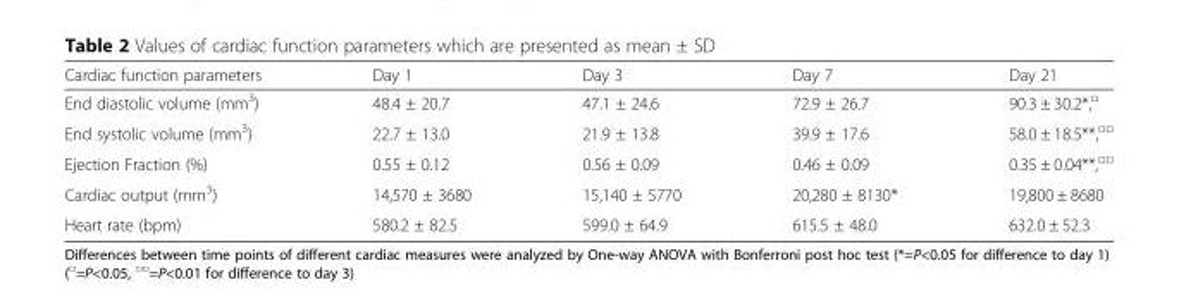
<table><thead><tr><td>Cardiac function parameters</td><td>Day 1</td><td>Day 3</td><td>Day 7</td><td>Day 21</td></tr></thead><tbody><tr><td>End diastolic volume (mm<sup>3</sup>)</td><td>48.4 ± 20.7</td><td>47.1 ± 24.6</td><td>72.9 ± 26.7</td><td>90.3 ± 30.2*,<sup>□</sup></td></tr><tr><td>End systolic volume (mm<sup>3</sup>)</td><td>22.7 ± 13.0</td><td>21.9 ± 13.8</td><td>39.9 ± 17.6</td><td>58.0 ± 18.5**,<sup>□□</sup></td></tr><tr><td>Ejection Fraction (%)</td><td>0.55 ± 0.12</td><td>0.56 ± 0.09</td><td>0.46 ± 0.09</td><td>0.35 ± 0.04**,<sup>□□</sup></td></tr><tr><td>Cardiac output (mm<sup>3</sup>)</td><td>14,570 ± 3680</td><td>15,140 ± 5770</td><td>20,280 ± 8130*</td><td>19,800 ± 8680</td></tr><tr><td>Heart rate (bpm)</td><td>580.2 ± 82.5</td><td>599.0 ± 64.9</td><td>615.5 ± 48.0</td><td>632.0 ± 52.3</td></tr></tbody></table>